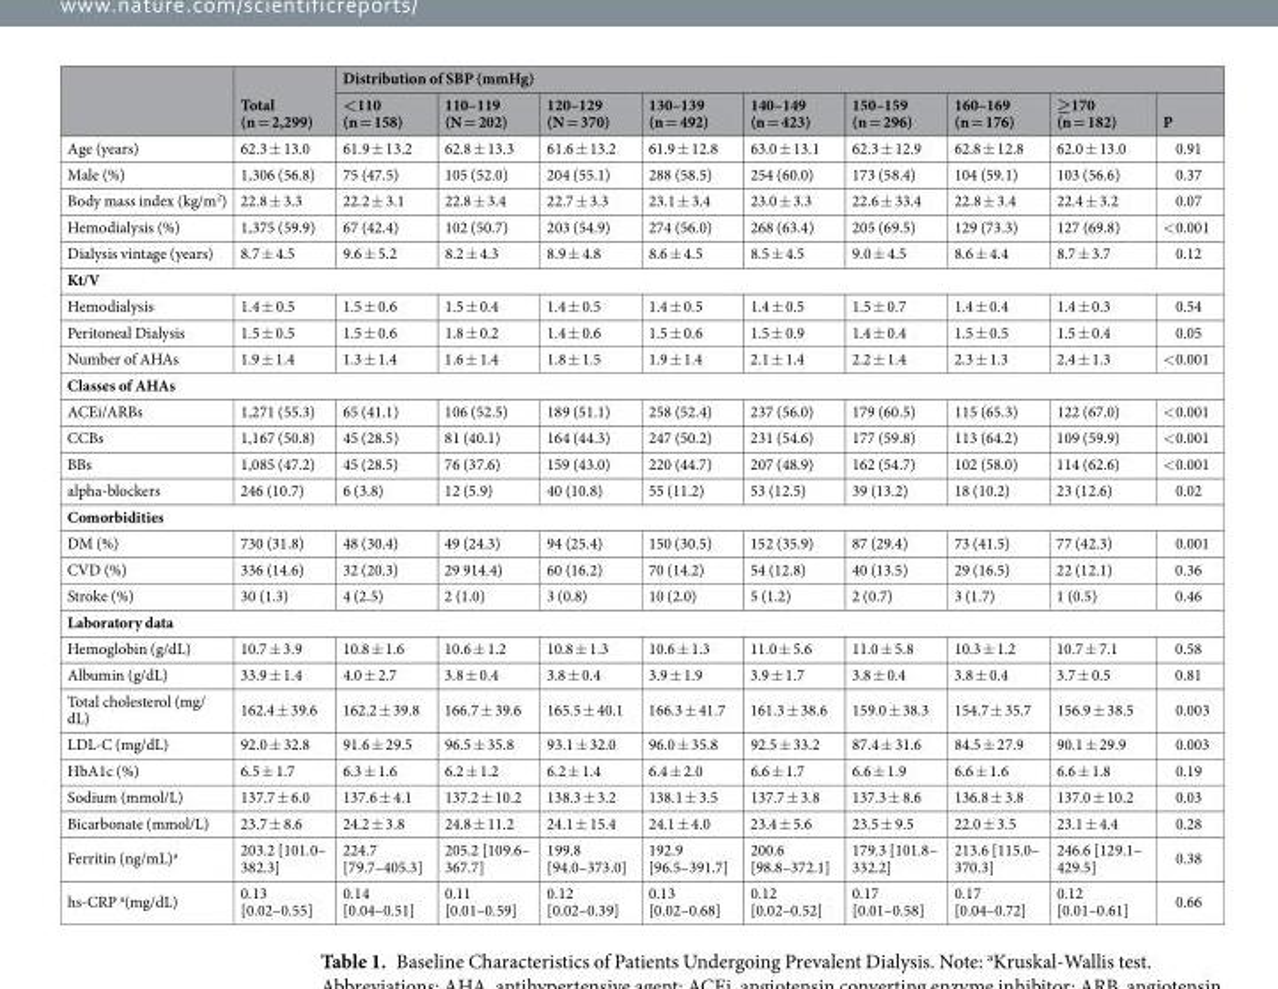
<table><thead><tr><td rowspan="2"></td><td rowspan="2">Total (n = 2,299)</td><td colspan="9">Distribution of SBP (mmHg)</td></tr><tr><td>&lt;110 (n = 158)</td><td>110–119 (N = 202)</td><td>120–129 (N = 370)</td><td>130–139 (n = 492)</td><td>140–149 (n = 423)</td><td>150–159 (n = 296)</td><td>160–169 (n = 176)</td><td>≥170 (n = 182)</td><td>P</td></tr></thead><tbody><tr><td>Age (years)</td><td>62.3 ± 13.0</td><td>61.9 ± 13.2</td><td>62.8 ± 13.3</td><td>61.6 ± 13.2</td><td>61.9 ± 12.8</td><td>63.0 ± 13.1</td><td>62.3 ± 12.9</td><td>62.8 ± 12.8</td><td>62.0 ± 13.0</td><td>0.91</td></tr><tr><td>Male (%)</td><td>1,306 (56.8)</td><td>75 (47.5)</td><td>105 (52.0)</td><td>204 (55.1)</td><td>288 (58.5)</td><td>254 (60.0)</td><td>173 (58.4)</td><td>104 (59.1)</td><td>103 (56.6)</td><td>0.37</td></tr><tr><td>Body mass index (kg/m<sup>2</sup>)</td><td>22.8 ± 3.3</td><td>22.2 ± 3.1</td><td>22.8 ± 3.4</td><td>22.7 ± 3.3</td><td>23.1 ± 3.4</td><td>23.0 ± 3.3</td><td>22.6 ± 33.4</td><td>22.8 ± 3.4</td><td>22.4 ± 3.2</td><td>0.07</td></tr><tr><td>Hemodialysis (%)</td><td>1,375 (59.9)</td><td>67 (42.4)</td><td>102 (50.7)</td><td>203 (54.9)</td><td>274 (56.0)</td><td>268 (63.4)</td><td>205 (69.5)</td><td>129 (73.3)</td><td>127 (69.8)</td><td>&lt;0.001</td></tr><tr><td>Dialysis vintage (years)</td><td>8.7 ± 4.5</td><td>9.6 ± 5.2</td><td>8.2 ± 4.3</td><td>8.9 ± 4.8</td><td>8.6 ± 4.5</td><td>8.5 ± 4.5</td><td>9.0 ± 4.5</td><td>8.6 ± 4.4</td><td>8.7 ± 3.7</td><td>0.12</td></tr><tr><td colspan="11">Kt/V</td></tr><tr><td>Hemodialysis</td><td>1.4 ± 0.5</td><td>1.5 ± 0.6</td><td>1.5 ± 0.4</td><td>1.4 ± 0.5</td><td>1.4 ± 0.5</td><td>1.4 ± 0.5</td><td>1.5 ± 0.7</td><td>1.4 ± 0.4</td><td>1.4 ± 0.3</td><td>0.54</td></tr><tr><td>Peritoneal Dialysis</td><td>1.5 ± 0.5</td><td>1.5 ± 0.6</td><td>1.8 ± 0.2</td><td>1.4 ± 0.6</td><td>1.5 ± 0.6</td><td>1.5 ± 0.9</td><td>1.4 ± 0.4</td><td>1.5 ± 0.5</td><td>1.5 ± 0.4</td><td>0.05</td></tr><tr><td>Number of AHAs</td><td>1.9 ± 1.4</td><td>1.3 ± 1.4</td><td>1.6 ± 1.4</td><td>1.8 ± 1.5</td><td>1.9 ± 1.4</td><td>2.1 ± 1.4</td><td>2.2 ± 1.4</td><td>2.3 ± 1.3</td><td>2.4 ± 1.3</td><td>&lt;0.001</td></tr><tr><td colspan="11">Classes of AHAs</td></tr><tr><td>ACEi/ARBs</td><td>1,271 (55.3)</td><td>65 (41.1)</td><td>106 (52.5)</td><td>189 (51.1)</td><td>258 (52.4)</td><td>237 (56.0)</td><td>179 (60.5)</td><td>115 (65.3)</td><td>122 (67.0)</td><td>&lt;0.001</td></tr><tr><td>CCBs</td><td>1,167 (50.8)</td><td>45 (28.5)</td><td>81 (40.1)</td><td>164 (44.3)</td><td>247 (50.2)</td><td>231 (54.6)</td><td>177 (59.8)</td><td>113 (64.2)</td><td>109 (59.9)</td><td>&lt;0.001</td></tr><tr><td>BBs</td><td>1,085 (47.2)</td><td>45 (28.5)</td><td>76 (37.6)</td><td>159 (43.0)</td><td>220 (44.7)</td><td>207 (48.9)</td><td>162 (54.7)</td><td>102 (58.0)</td><td>114 (62.6)</td><td>&lt;0.001</td></tr><tr><td>alpha-blockers</td><td>246 (10.7)</td><td>6 (3.8)</td><td>12 (5.9)</td><td>40 (10.8)</td><td>55 (11.2)</td><td>53 (12.5)</td><td>39 (13.2)</td><td>18 (10.2)</td><td>23 (12.6)</td><td>0.02</td></tr><tr><td colspan="11">Comorbidities</td></tr><tr><td>DM (%)</td><td>730 (31.8)</td><td>48 (30.4)</td><td>49 (24.3)</td><td>94 (25.4)</td><td>150 (30.5)</td><td>152 (35.9)</td><td>87 (29.4)</td><td>73 (41.5)</td><td>77 (42.3)</td><td>0.001</td></tr><tr><td>CVD (%)</td><td>336 (14.6)</td><td>32 (20.3)</td><td>29 914.4)</td><td>60 (16.2)</td><td>70 (14.2)</td><td>54 (12.8)</td><td>40 (13.5)</td><td>29 (16.5)</td><td>22 (12.1)</td><td>0.36</td></tr><tr><td>Stroke (%)</td><td>30 (1.3)</td><td>4 (2.5)</td><td>2 (1.0)</td><td>3 (0.8)</td><td>10 (2.0)</td><td>5 (1.2)</td><td>2 (0.7)</td><td>3 (1.7)</td><td>1 (0.5)</td><td>0.46</td></tr><tr><td colspan="11">Laboratory data</td></tr><tr><td>Hemoglobin (g/dL)</td><td>10.7 ± 3.9</td><td>10.8 ± 1.6</td><td>10.6 ± 1.2</td><td>10.8 ± 1.3</td><td>10.6 ± 1.3</td><td>11.0 ± 5.6</td><td>11.0 ± 5.8</td><td>10.3 ± 1.2</td><td>10.7 ± 7.1</td><td>0.58</td></tr><tr><td>Albumin (g/dL)</td><td>33.9 ± 1.4</td><td>4.0 ± 2.7</td><td>3.8 ± 0.4</td><td>3.8 ± 0.4</td><td>3.9 ± 1.9</td><td>3.9 ± 1.7</td><td>3.8 ± 0.4</td><td>3.8 ± 0.4</td><td>3.7 ± 0.5</td><td>0.81</td></tr><tr><td>Total cholesterol (mg/ dL)</td><td>162.4 ± 39.6</td><td>162.2 ± 39.8</td><td>166.7 ± 39.6</td><td>165.5 ± 40.1</td><td>166.3 ± 41.7</td><td>161.3 ± 38.6</td><td>159.0 ± 38.3</td><td>154.7 ± 35.7</td><td>156.9 ± 38.5</td><td>0.003</td></tr><tr><td>LDL-C (mg/dL)</td><td>92.0 ± 32.8</td><td>91.6 ± 29.5</td><td>96.5 ± 35.8</td><td>93.1 ± 32.0</td><td>96.0 ± 35.8</td><td>92.5 ± 33.2</td><td>87.4 ± 31.6</td><td>84.5 ± 27.9</td><td>90.1 ± 29.9</td><td>0.003</td></tr><tr><td>HbA1c (%)</td><td>6.5 ± 1.7</td><td>6.3 ± 1.6</td><td>6.2 ± 1.2</td><td>6.2 ± 1.4</td><td>6.4 ± 2.0</td><td>6.6 ± 1.7</td><td>6.6 ± 1.9</td><td>6.6 ± 1.6</td><td>6.6 ± 1.8</td><td>0.19</td></tr><tr><td>Sodium (mmol/L)</td><td>137.7 ± 6.0</td><td>137.6 ± 4.1</td><td>137.2 ± 10.2</td><td>138.3 ± 3.2</td><td>138.1 ± 3.5</td><td>137.7 ± 3.8</td><td>137.3 ± 8.6</td><td>136.8 ± 3.8</td><td>137.0 ± 10.2</td><td>0.03</td></tr><tr><td>Bicarbonate (mmol/L)</td><td>23.7 ± 8.6</td><td>24.2 ± 3.8</td><td>24.8 ± 11.2</td><td>24.1 ± 15.4</td><td>24.1 ± 4.0</td><td>23.4 ± 5.6</td><td>23.5 ± 9.5</td><td>22.0 ± 3.5</td><td>23.1 ± 4.4</td><td>0.28</td></tr><tr><td>Ferritin (ng/mL)<sup>a</sup></td><td>203.2 [101.0– 382.3]</td><td>224.7 [79.7–405.3]</td><td>205.2 [109.6– 367.7]</td><td>199.8 [94.0–373.0]</td><td>192.9 [96.5–391.7]</td><td>200.6 [98.8–372.1]</td><td>179.3 [101.8– 332.2]</td><td>213.6 [115.0– 370.3]</td><td>246.6 [129.1– 429.5]</td><td>0.38</td></tr><tr><td>hs-CRP <sup>a</sup>(mg/dL)</td><td>0.13 [0.02–0.55]</td><td>0.14 [0.04–0.51]</td><td>0.11 [0.01–0.59]</td><td>0.12 [0.02–0.39]</td><td>0.13 [0.02–0.68]</td><td>0.12 [0.02–0.52]</td><td>0.17 [0.01–0.58]</td><td>0.17 [0.04–0.72]</td><td>0.12 [0.01–0.61]</td><td>0.66</td></tr></tbody></table>